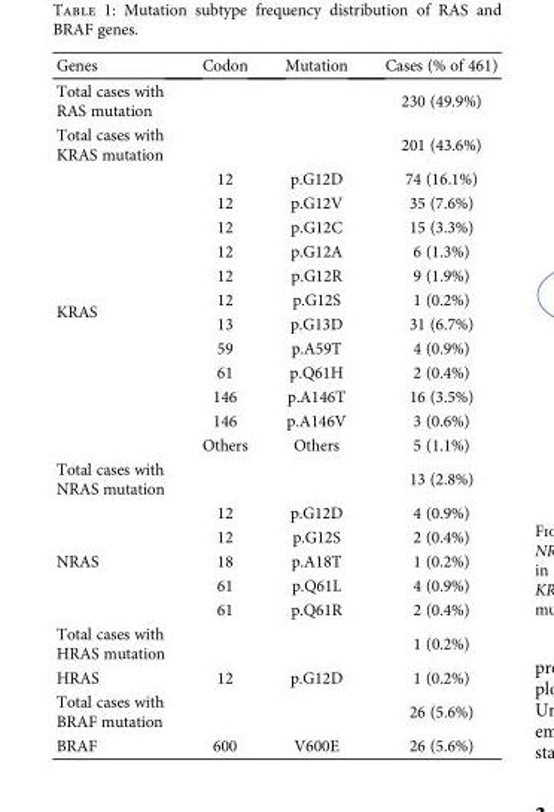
<table><thead><tr><td>Genes</td><td>Codon</td><td>Mutation</td><td>Cases (% of 461)</td></tr></thead><tbody><tr><td>Total cases with RAS mutation</td><td></td><td></td><td>230 (49.9%)</td></tr><tr><td>Total cases with KRAS mutation</td><td></td><td></td><td>201 (43.6%)</td></tr><tr><td rowspan="12">KRAS</td><td>12</td><td>p.G12D</td><td>74 (16.1%)</td></tr><tr><td>12</td><td>p.G12V</td><td>35 (7.6%)</td></tr><tr><td>12</td><td>p.G12C</td><td>15 (3.3%)</td></tr><tr><td>12</td><td>p.G12A</td><td>6 (1.3%)</td></tr><tr><td>12</td><td>p.G12R</td><td>9 (1.9%)</td></tr><tr><td>12</td><td>p.G12S</td><td>1 (0.2%)</td></tr><tr><td>13</td><td>p.G13D</td><td>31 (6.7%)</td></tr><tr><td>59</td><td>p.A59T</td><td>4 (0.9%)</td></tr><tr><td>61</td><td>p.Q61H</td><td>2 (0.4%)</td></tr><tr><td>146</td><td>p.A146T</td><td>16 (3.5%)</td></tr><tr><td>146</td><td>p.A146V</td><td>3 (0.6%)</td></tr><tr><td>Others</td><td>Others</td><td>5 (1.1%)</td></tr><tr><td>Total cases with NRAS mutation</td><td></td><td></td><td>13 (2.8%)</td></tr><tr><td rowspan="5">NRAS</td><td>12</td><td>p.G12D</td><td>4 (0.9%)</td></tr><tr><td>12</td><td>p.G12S</td><td>2 (0.4%)</td></tr><tr><td>18</td><td>p.A18T</td><td>1 (0.2%)</td></tr><tr><td>61</td><td>p.Q61L</td><td>4 (0.9%)</td></tr><tr><td>61</td><td>p.Q61R</td><td>2 (0.4%)</td></tr><tr><td>Total cases with HRAS mutation</td><td></td><td></td><td>1 (0.2%)</td></tr><tr><td>HRAS</td><td>12</td><td>p.G12D</td><td>1 (0.2%)</td></tr><tr><td>Total cases with BRAF mutation</td><td></td><td></td><td>26 (5.6%)</td></tr><tr><td>BRAF</td><td>600</td><td>V600E</td><td>26 (5.6%)</td></tr></tbody></table>